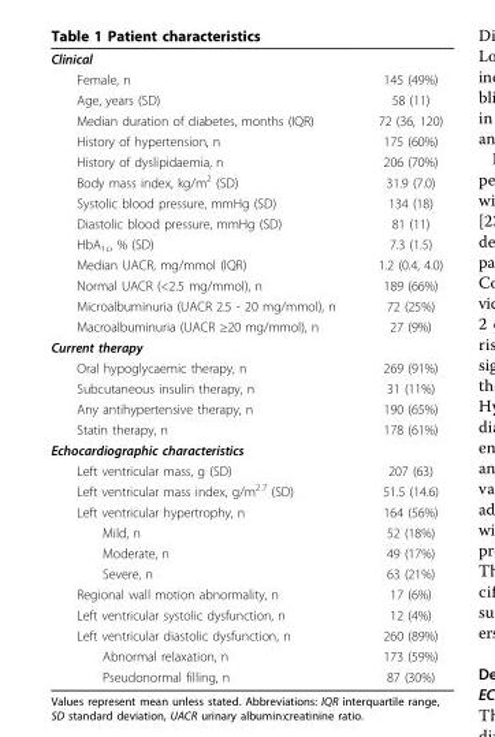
<table><tbody><tr><td colspan="2">Clinical</td></tr><tr><td>Female, n</td><td>145 (49%)</td></tr><tr><td>Age, years (SD)</td><td>58 (11)</td></tr><tr><td>Median duration of diabetes, months (IQR)</td><td>72 (36, 120)</td></tr><tr><td>History of hypertension, n</td><td>175 (60%)</td></tr><tr><td>History of dyslipidaemia, n</td><td>206 (70%)</td></tr><tr><td>Body mass index, kg/m<sup>2</sup> (SD)</td><td>31.9 (7.0)</td></tr><tr><td>Systolic blood pressure, mmHg (SD)</td><td>134 (18)</td></tr><tr><td>Diastolic blood pressure, mmHg (SD)</td><td>81 (11)</td></tr><tr><td>HbA<sub>1c</sub>, % (SD)</td><td>7.3 (1.5)</td></tr><tr><td>Median UACR, mg/mmol (IQR)</td><td>1.2 (0.4, 4.0)</td></tr><tr><td>Normal UACR (&lt;2.5 mg/mmol), n</td><td>189 (66%)</td></tr><tr><td>Microalbuminuria (UACR 2.5 - 20 mg/mmol), n</td><td>72 (25%)</td></tr><tr><td>Macroalbuminuria (UACR ≥20 mg/mmol), n</td><td>27 (9%)</td></tr><tr><td colspan="2">Current therapy</td></tr><tr><td>Oral hypoglycaemic therapy, n</td><td>269 (91%)</td></tr><tr><td>Subcutaneous insulin therapy, n</td><td>31 (11%)</td></tr><tr><td>Any antihypertensive therapy, n</td><td>190 (65%)</td></tr><tr><td>Statin therapy, n</td><td>178 (61%)</td></tr><tr><td colspan="2">Echocardiographic characteristics</td></tr><tr><td>Left ventricular mass, g (SD)</td><td>207 (63)</td></tr><tr><td>Left ventricular mass index, g/m<sup>2.7</sup> (SD)</td><td>51.5 (14.6)</td></tr><tr><td>Left ventricular hypertrophy, n</td><td>164 (56%)</td></tr><tr><td>Mild, n</td><td>52 (18%)</td></tr><tr><td>Moderate, n</td><td>49 (17%)</td></tr><tr><td>Severe, n</td><td>63 (21%)</td></tr><tr><td>Regional wall motion abnormality, n</td><td>17 (6%)</td></tr><tr><td>Left ventricular systolic dysfunction, n</td><td>12 (4%)</td></tr><tr><td>Left ventricular diastolic dysfunction, n</td><td>260 (89%)</td></tr><tr><td>Abnormal relaxation, n</td><td>173 (59%)</td></tr><tr><td>Pseudonormal filling, n</td><td>87 (30%)</td></tr></tbody></table>